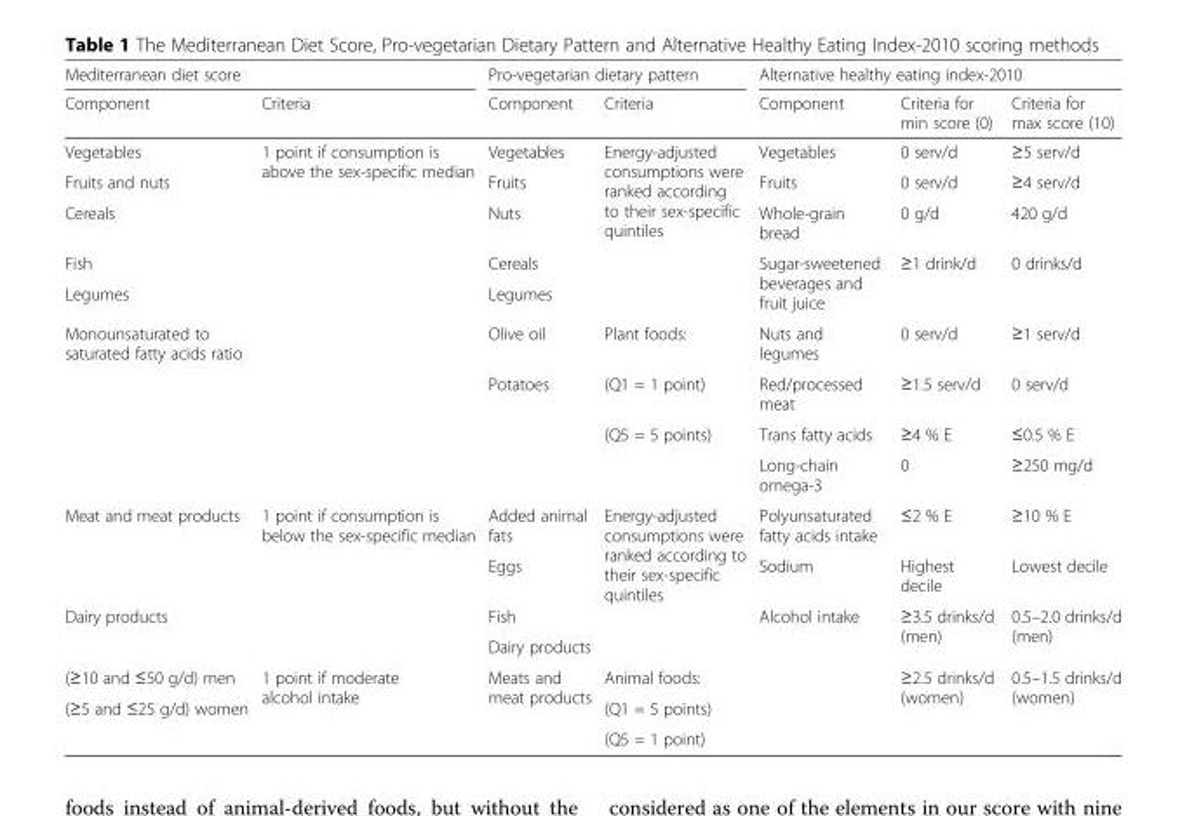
<table><thead><tr><td colspan="2">Mediterranean diet score</td><td colspan="2">Pro-vegetarian dietary pattern</td><td colspan="3">Alternative healthy eating index-2010</td></tr><tr><td>Component</td><td>Criteria</td><td>Component</td><td>Criteria</td><td>Component</td><td>Criteria for min score (0)</td><td>Criteria for max score (10)</td></tr></thead><tbody><tr><td>Vegetables</td><td rowspan="9">1 point if consumption is above the sex-specific median</td><td>Vegetables</td><td rowspan="5">Energy-adjusted consumptions were ranked according to their sex-specific quintiles</td><td>Vegetables</td><td>0 serv/d</td><td>≥5 serv/d</td></tr><tr><td>Fruits and nuts</td><td>Fruits</td><td>Fruits</td><td>0 serv/d</td><td>≥4 serv/d</td></tr><tr><td>Cereals</td><td>Nuts</td><td>Whole-grain bread</td><td>0 g/d</td><td>420 g/d</td></tr><tr><td>Fish</td><td>Cereals</td><td rowspan="2">Sugar-sweetened beverages and fruit juice</td><td>≥1 drink/d</td><td>0 drinks/d</td></tr><tr><td>Legumes</td><td>Legumes</td><td></td><td></td></tr><tr><td rowspan="4">Monounsaturated to saturated fatty acids ratio</td><td>Olive oil</td><td>Plant foods:</td><td>Nuts and legumes</td><td>0 serv/d</td><td>≥1 serv/d</td></tr><tr><td rowspan="3">Potatoes</td><td>(Q1 = 1 point)</td><td>Red/processed meat</td><td>≥1.5 serv/d</td><td>0 serv/d</td></tr><tr><td rowspan="2">(Q5 = 5 points)</td><td>Trans fatty acids</td><td>≥4 % E</td><td>≤0.5 % E</td></tr><tr><td>Long-chain omega-3</td><td>0</td><td>≥250 mg/d</td></tr><tr><td rowspan="2">Meat and meat products</td><td rowspan="4">1 point if consumption is below the sex-specific median</td><td>Added animal fats</td><td rowspan="4">Energy-adjusted consumptions were ranked according to their sex-specific quintiles</td><td>Polyunsaturated fatty acids intake</td><td>≤2 % E</td><td>≥10 % E</td></tr><tr><td>Eggs</td><td>Sodium</td><td>Highest decile</td><td>Lowest decile</td></tr><tr><td rowspan="2">Dairy products</td><td>Fish</td><td rowspan="5">Alcohol intake</td><td rowspan="2">≥3.5 drinks/d (men)</td><td rowspan="2">0.5–2.0 drinks/d (men)</td></tr><tr><td>Dairy products</td></tr><tr><td>(≥10 and ≤50 g/d) men</td><td rowspan="3">1 point if moderate alcohol intake</td><td rowspan="3">Meats and meat products</td><td>Animal foods:</td><td rowspan="3">≥2.5 drinks/d (women)</td><td rowspan="3">0.5–1.5 drinks/d (women)</td></tr><tr><td rowspan="2">(≥5 and ≤25 g/d) women</td><td>(Q1 = 5 points)</td></tr><tr><td>(Q5 = 1 point)</td></tr></tbody></table>